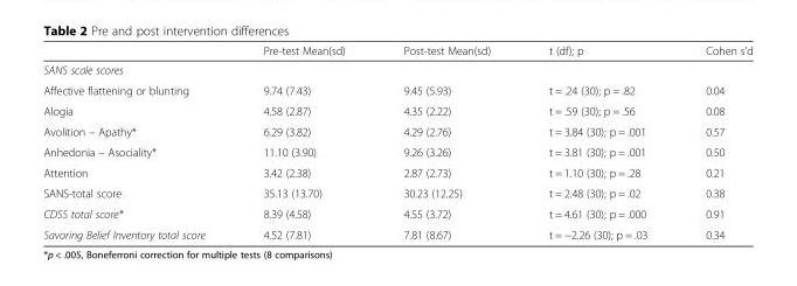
<table><thead><tr><td></td><td>Pre-test Mean(sd)</td><td>Post-test Mean(sd)</td><td>t (df); p</td><td>Cohen s’d</td></tr></thead><tbody><tr><td colspan="5">SANS scale scores</td></tr><tr><td>Affective flattening or blunting</td><td>9.74 (7.43)</td><td>9.45 (5.93)</td><td>t = .24 (30); p = .82</td><td>0.04</td></tr><tr><td>Alogia</td><td>4.58 (2.87)</td><td>4.35 (2.22)</td><td>t = .59 (30); p = .56</td><td>0.08</td></tr><tr><td>Avolition – Apathy*</td><td>6.29 (3.82)</td><td>4.29 (2.76)</td><td>t = 3.84 (30); p = .001</td><td>0.57</td></tr><tr><td>Anhedonia – Asociality*</td><td>11.10 (3.90)</td><td>9.26 (3.26)</td><td>t = 3.81 (30); p = .001</td><td>0.50</td></tr><tr><td>Attention</td><td>3.42 (2.38)</td><td>2.87 (2.73)</td><td>t = 1.10 (30); p = .28</td><td>0.21</td></tr><tr><td>SANS-total score</td><td>35.13 (13.70)</td><td>30.23 (12.25)</td><td>t = 2.48 (30); p = .02</td><td>0.38</td></tr><tr><td>CDSS total score*</td><td>8.39 (4.58)</td><td>4.55 (3.72)</td><td>t = 4.61 (30); p = .000</td><td>0.91</td></tr><tr><td>Savoring Belief Inventory total score</td><td>4.52 (7.81)</td><td>7.81 (8.67)</td><td>t = −2.26 (30); p = .03</td><td>0.34</td></tr></tbody></table>